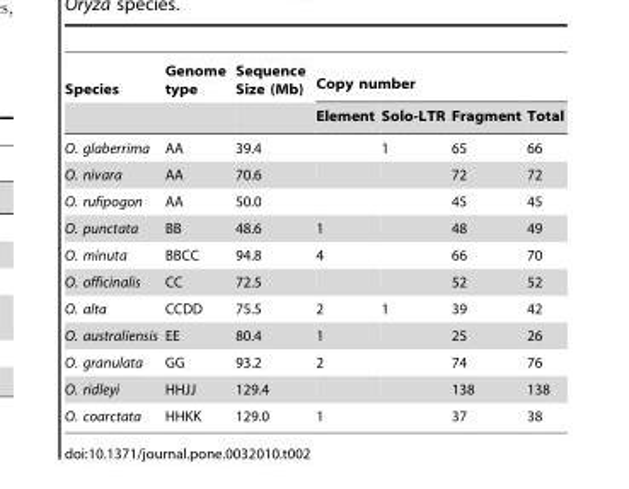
<table><thead><tr><td rowspan="2">Species</td><td rowspan="2">Genome type</td><td rowspan="2">Sequence Size (Mb)</td><td colspan="4">Copy number</td></tr><tr><td>Element</td><td>Solo-LTR</td><td>Fragment</td><td>Total</td></tr></thead><tbody><tr><td>O. glaberrima</td><td>AA</td><td>39.4</td><td></td><td>1</td><td>65</td><td>66</td></tr><tr><td>O. nivara</td><td>AA</td><td>70.6</td><td></td><td></td><td>72</td><td>72</td></tr><tr><td>O. rufipogon</td><td>AA</td><td>50.0</td><td></td><td></td><td>45</td><td>45</td></tr><tr><td>O. punctata</td><td>BB</td><td>48.6</td><td>1</td><td></td><td>48</td><td>49</td></tr><tr><td>O. minuta</td><td>BBCC</td><td>94.8</td><td>4</td><td></td><td>66</td><td>70</td></tr><tr><td>O. officinalis</td><td>CC</td><td>72.5</td><td></td><td></td><td>52</td><td>52</td></tr><tr><td>O. alta</td><td>CCDD</td><td>75.5</td><td>2</td><td>1</td><td>39</td><td>42</td></tr><tr><td>O. australiensis</td><td>EE</td><td>80.4</td><td>1</td><td></td><td>25</td><td>26</td></tr><tr><td>O. granulata</td><td>GG</td><td>93.2</td><td>2</td><td></td><td>74</td><td>76</td></tr><tr><td>O. ridleyi</td><td>HHJJ</td><td>129.4</td><td></td><td></td><td>138</td><td>138</td></tr><tr><td>O. coarctata</td><td>HHKK</td><td>129.0</td><td>1</td><td></td><td>37</td><td>38</td></tr></tbody></table>